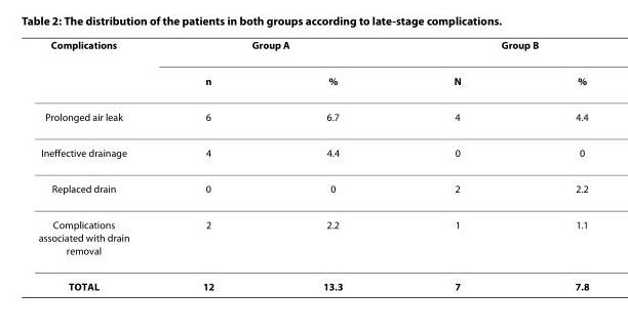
<table><thead><tr><td rowspan="2">Complications</td><td colspan="2">Group A</td><td colspan="2">Group B</td></tr><tr><td>n</td><td>%</td><td>N</td><td>%</td></tr></thead><tbody><tr><td>Prolonged air leak</td><td>6</td><td>6.7</td><td>4</td><td>4.4</td></tr><tr><td>Ineffective drainage</td><td>4</td><td>4.4</td><td>0</td><td>0</td></tr><tr><td>Replaced drain</td><td>0</td><td>0</td><td>2</td><td>2.2</td></tr><tr><td>Complications associated with drain removal</td><td>2</td><td>2.2</td><td>1</td><td>1.1</td></tr><tr><td>TOTAL</td><td>12</td><td>13.3</td><td>7</td><td>7.8</td></tr></tbody></table>